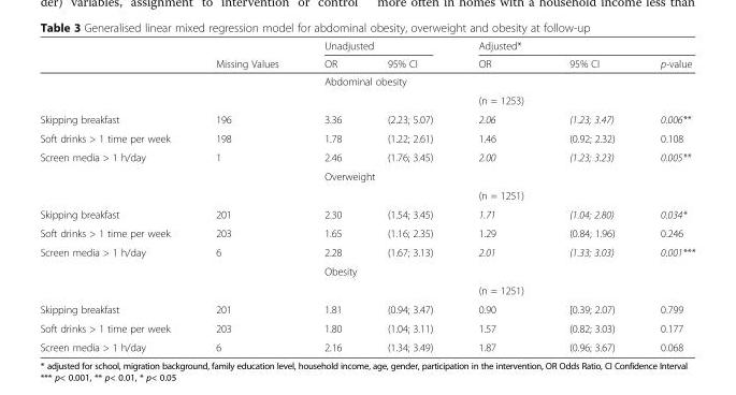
<table><thead><tr><td rowspan="2"></td><td rowspan="2">Missing Values</td><td colspan="2">Unadjusted</td><td colspan="3">Adjusted*</td></tr><tr><td>OR</td><td>95% CI</td><td>OR</td><td>95% CI</td><td>p-value</td></tr></thead><tbody><tr><td></td><td></td><td colspan="5">Abdominal obesity</td></tr><tr><td></td><td></td><td></td><td></td><td>(n = 1253)</td><td></td><td></td></tr><tr><td>Skipping breakfast</td><td>196</td><td>3.36</td><td>(2.23; 5.07)</td><td>2.06</td><td>(1.23; 3.47)</td><td>0.006**</td></tr><tr><td>Soft drinks &gt; 1 time per week</td><td>198</td><td>1.78</td><td>(1.22; 2.61)</td><td>1.46</td><td>(0.92; 2.32)</td><td>0.108</td></tr><tr><td rowspan="3">Screen media &gt; 1 h/day</td><td>1</td><td>2.46</td><td>(1.76; 3.45)</td><td>2.00</td><td>(1.23; 3.23)</td><td>0.005**</td></tr><tr><td></td><td colspan="5">Overweight</td></tr><tr><td></td><td></td><td></td><td>(n = 1251)</td><td></td><td></td></tr><tr><td>Skipping breakfast</td><td>201</td><td>2.30</td><td>(1.54; 3.45)</td><td>1.71</td><td>(1.04; 2.80)</td><td>0.034*</td></tr><tr><td>Soft drinks &gt; 1 time per week</td><td>203</td><td>1.65</td><td>(1.16; 2.35)</td><td>1.29</td><td>(0.84; 1.96)</td><td>0.246</td></tr><tr><td rowspan="3">Screen media &gt; 1 h/day</td><td>6</td><td>2.28</td><td>(1.67; 3.13)</td><td>2.01</td><td>(1.33; 3.03)</td><td>0.001***</td></tr><tr><td></td><td colspan="5">Obesity</td></tr><tr><td></td><td></td><td></td><td>(n = 1251)</td><td></td><td></td></tr><tr><td>Skipping breakfast</td><td>201</td><td>1.81</td><td>(0.94; 3.47)</td><td>0.90</td><td>[0.39; 2.07)</td><td>0.799</td></tr><tr><td>Soft drinks &gt; 1 time per week</td><td>203</td><td>1.80</td><td>(1.04; 3.11)</td><td>1.57</td><td>(0.82; 3.03)</td><td>0.177</td></tr><tr><td>Screen media &gt; 1 h/day</td><td>6</td><td>2.16</td><td>(1.34; 3.49)</td><td>1.87</td><td>(0.96; 3.67)</td><td>0.068</td></tr></tbody></table>